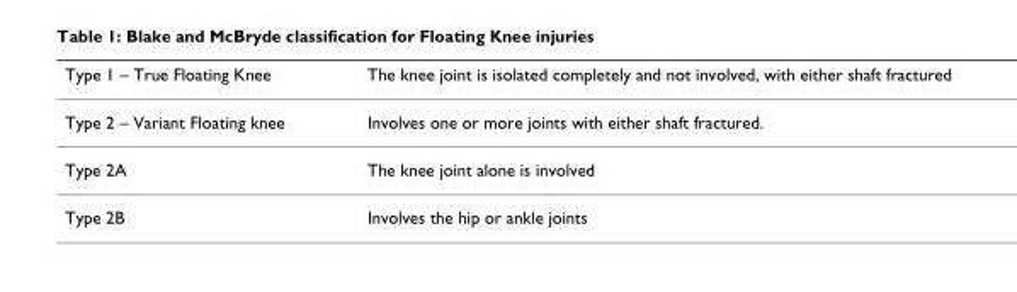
<table><thead><tr><td>Type 1 – True Floating Knee</td><td>The knee joint is isolated completely and not involved, with either shaft fractured</td></tr></thead><tbody><tr><td>Type 2 – Variant Floating knee</td><td>Involves one or more joints with either shaft fractured.</td></tr><tr><td>Type 2A</td><td>The knee joint alone is involved</td></tr><tr><td>Type 2B</td><td>Involves the hip or ankle joints</td></tr></tbody></table>